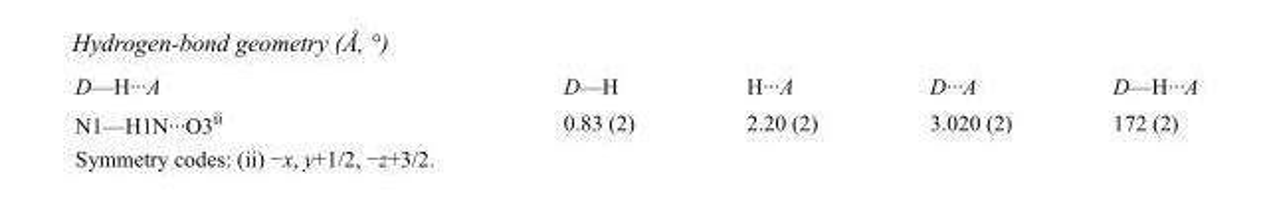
<table><tbody><tr><td>D—H···A</td><td>D—H</td><td>H···A</td><td>D···A</td><td>D—H···A</td></tr><tr><td>N1—H1N···O3<sup>ii</sup></td><td>0.83 (2)</td><td>2.20 (2)</td><td>3.020 (2)</td><td>172 (2)</td></tr></tbody></table>